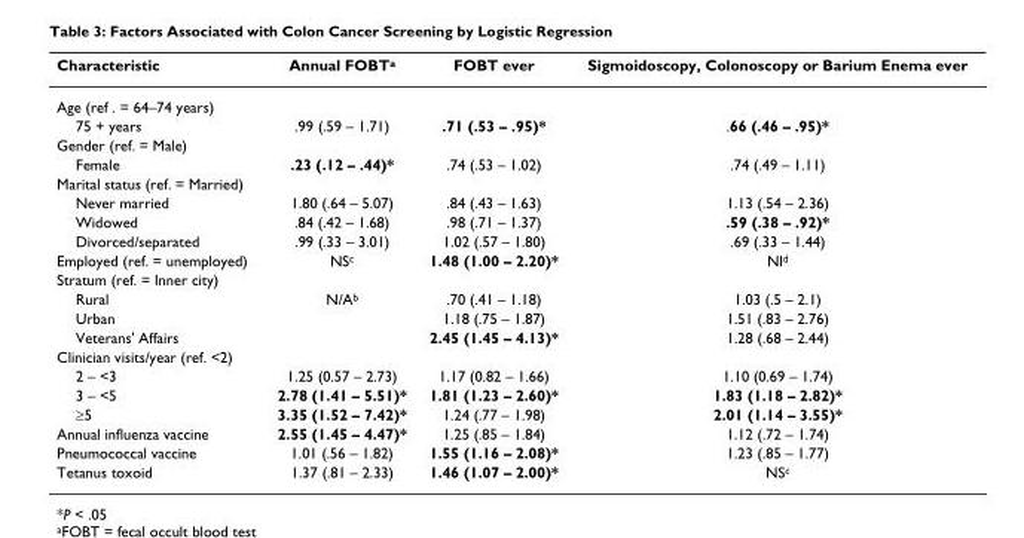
<table><thead><tr><td>Characteristic</td><td>Annual FOBTa</td><td>FOBT ever</td><td>Sigmoidoscopy, Colonoscopy or Barium Enema ever</td></tr></thead><tbody><tr><td colspan="4">Age (ref . = 64–74 years)</td></tr><tr><td>75 + years</td><td>.99 (.59 – 1.71)</td><td>.71 (.53 – .95)*</td><td>.66 (.46 – .95)*</td></tr><tr><td colspan="4">Gender (ref. = Male)</td></tr><tr><td>Female</td><td>.23 (.12 – .44)*</td><td>.74 (.53 – 1.02)</td><td>.74 (.49 – 1.11)</td></tr><tr><td colspan="4">Marital status (ref. = Married)</td></tr><tr><td>Never married</td><td>1.80 (.64 – 5.07)</td><td>.84 (.43 – 1.63)</td><td>1.13 (.54 – 2.36)</td></tr><tr><td>Widowed</td><td>.84 (.42 – 1.68)</td><td>.98 (.71 – 1.37)</td><td>.59 (.38 – .92)*</td></tr><tr><td>Divorced/separated</td><td>.99 (.33 – 3.01)</td><td>1.02 (.57 – 1.80)</td><td>.69 (.33 – 1.44)</td></tr><tr><td>Employed (ref. = unemployed)</td><td>NSc</td><td>1.48 (1.00 – 2.20)*</td><td>NId</td></tr><tr><td colspan="4">Stratum (ref. = Inner city)</td></tr><tr><td>Rural</td><td>N/Ab</td><td>.70 (.41 – 1.18)</td><td>1.03 (.5 – 2.1)</td></tr><tr><td>Urban</td><td></td><td>1.18 (.75 – 1.87)</td><td>1.51 (.83 – 2.76)</td></tr><tr><td>Veterans&#x27; Affairs</td><td></td><td>2.45 (1.45 – 4.13)*</td><td>1.28 (.68 – 2.44)</td></tr><tr><td colspan="4">Clinician visits/year (ref. &lt;2)</td></tr><tr><td>2 – &lt;3</td><td>1.25 (0.57 – 2.73)</td><td>1.17 (0.82 – 1.66)</td><td>1.10 (0.69 – 1.74)</td></tr><tr><td>3 – &lt;5</td><td>2.78 (1.41 – 5.51)*</td><td>1.81 (1.23 – 2.60)*</td><td>1.83 (1.18 – 2.82)*</td></tr><tr><td>≥5</td><td>3.35 (1.52 – 7.42)*</td><td>1.24 (.77 – 1.98)</td><td>2.01 (1.14 – 3.55)*</td></tr><tr><td>Annual influenza vaccine</td><td>2.55 (1.45 – 4.47)*</td><td>1.25 (.85 – 1.84)</td><td>1.12 (.72 – 1.74)</td></tr><tr><td>Pneumococcal vaccine</td><td>1.01 (.56 – 1.82)</td><td>1.55 (1.16 – 2.08)*</td><td>1.23 (.85 – 1.77)</td></tr><tr><td>Tetanus toxoid</td><td>1.37 (.81 – 2.33)</td><td>1.46 (1.07 – 2.00)*</td><td>NSc</td></tr></tbody></table>